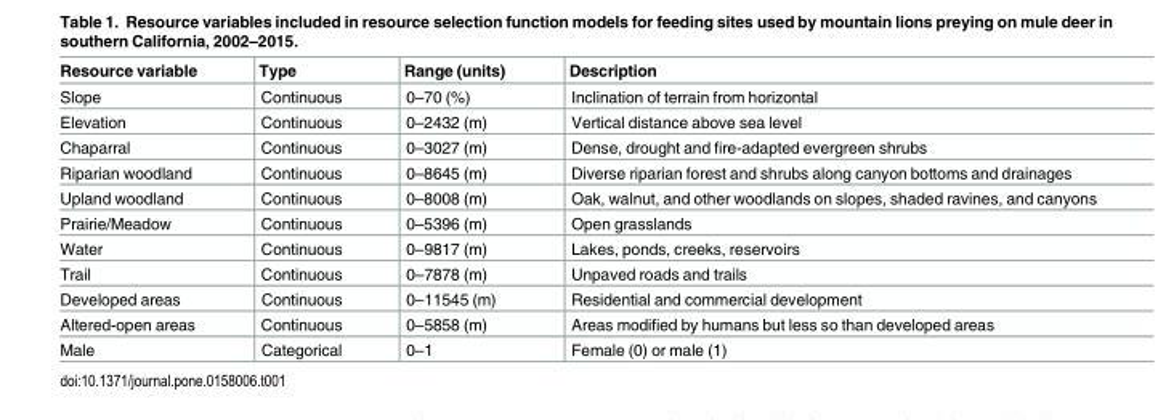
<table><thead><tr><td>Resource variable</td><td>Type</td><td>Range (units)</td><td>Description</td></tr></thead><tbody><tr><td>Slope</td><td>Continuous</td><td>0–70 (%)</td><td>Inclination of terrain from horizontal</td></tr><tr><td>Elevation</td><td>Continuous</td><td>0–2432 (m)</td><td>Vertical distance above sea level</td></tr><tr><td>Chaparral</td><td>Continuous</td><td>0–3027 (m)</td><td>Dense, drought and fire-adapted evergreen shrubs</td></tr><tr><td>Riparian woodland</td><td>Continuous</td><td>0–8645 (m)</td><td>Diverse riparian forest and shrubs along canyon bottoms and drainages</td></tr><tr><td>Upland woodland</td><td>Continuous</td><td>0–8008 (m)</td><td>Oak, walnut, and other woodlands on slopes, shaded ravines, and canyons</td></tr><tr><td>Prairie/Meadow</td><td>Continuous</td><td>0–5396 (m)</td><td>Open grasslands</td></tr><tr><td>Water</td><td>Continuous</td><td>0–9817 (m)</td><td>Lakes, ponds, creeks, reservoirs</td></tr><tr><td>Trail</td><td>Continuous</td><td>0–7878 (m)</td><td>Unpaved roads and trails</td></tr><tr><td>Developed areas</td><td>Continuous</td><td>0–11545 (m)</td><td>Residential and commercial development</td></tr><tr><td>Altered-open areas</td><td>Continuous</td><td>0–5858 (m)</td><td>Areas modified by humans but less so than developed areas</td></tr><tr><td>Male</td><td>Categorical</td><td>0–1</td><td>Female (0) or male (1)</td></tr></tbody></table>